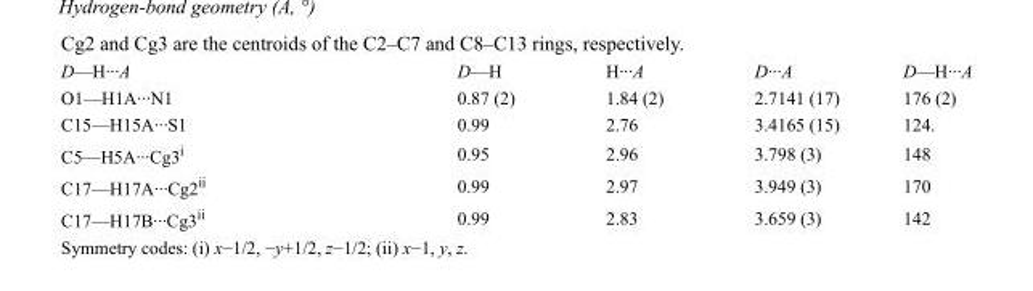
<table><tbody><tr><td>D—H···A</td><td>D—H</td><td>H···A</td><td>D···A</td><td>D—H···A</td></tr><tr><td>O1—H1A···N1</td><td>0.87 (2)</td><td>1.84 (2)</td><td>2.7141 (17)</td><td>176 (2)</td></tr><tr><td>C15—H15A···S1</td><td>0.99</td><td>2.76</td><td>3.4165 (15)</td><td>124.</td></tr><tr><td>C5—H5A···Cg3<sup>i</sup></td><td>0.95</td><td>2.96</td><td>3.798 (3)</td><td>148</td></tr><tr><td>C17—H17A···Cg2<sup>ii</sup></td><td>0.99</td><td>2.97</td><td>3.949 (3)</td><td>170</td></tr><tr><td>C17—H17B···Cg3<sup>ii</sup></td><td>0.99</td><td>2.83</td><td>3.659 (3)</td><td>142</td></tr></tbody></table>